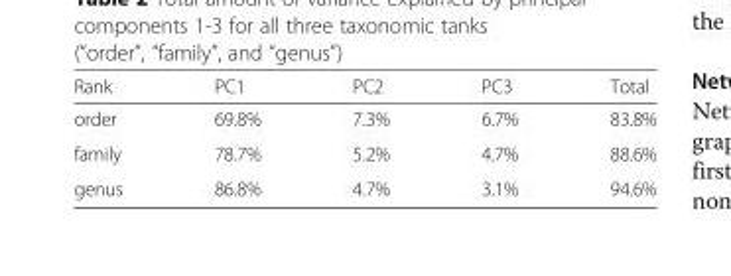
<table><thead><tr><td>Rank</td><td>PC1</td><td>PC2</td><td>PC3</td><td>Total</td></tr></thead><tbody><tr><td>order</td><td>69.8%</td><td>7.3%</td><td>6.7%</td><td>83.8%</td></tr><tr><td>family</td><td>78.7%</td><td>5.2%</td><td>4.7%</td><td>88.6%</td></tr><tr><td>genus</td><td>86.8%</td><td>4.7%</td><td>3.1%</td><td>94.6%</td></tr></tbody></table>